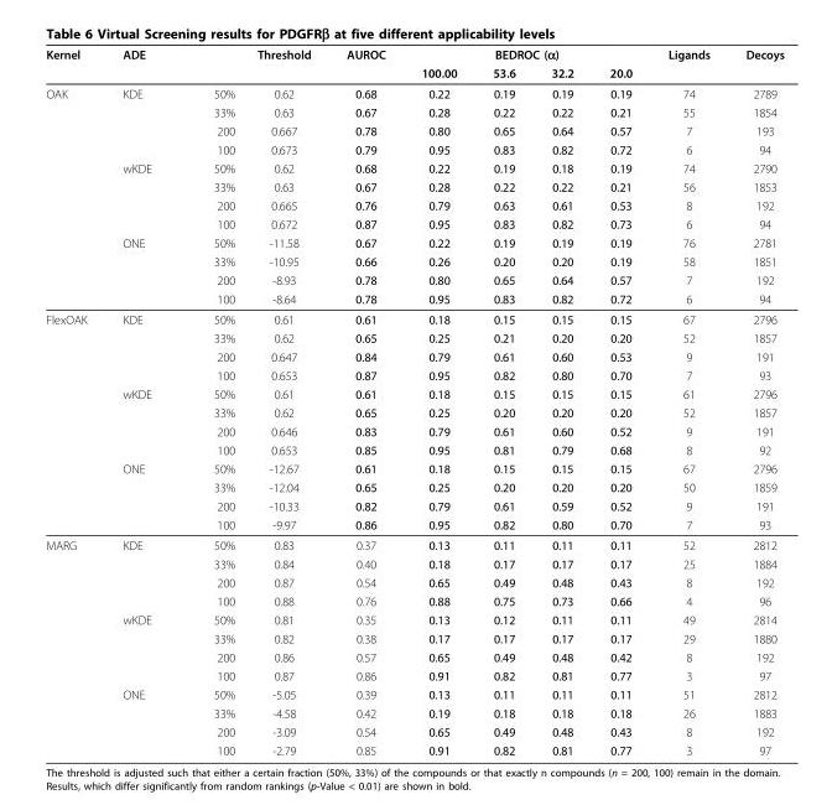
<table><thead><tr><td rowspan="2">Kernel</td><td rowspan="2">ADE</td><td rowspan="2"></td><td rowspan="2">Threshold</td><td rowspan="2">AUROC</td><td colspan="4">BEDROC (α)</td><td rowspan="2">Ligands</td><td rowspan="2">Decoys</td></tr><tr><td>100.00</td><td>53.6</td><td>32.2</td><td>20.0</td></tr></thead><tbody><tr><td rowspan="12">OAK</td><td>KDE</td><td>50%</td><td>0.62</td><td>0.68</td><td>0.22</td><td>0.19</td><td>0.19</td><td>0.19</td><td>74</td><td>2789</td></tr><tr><td></td><td>33%</td><td>0.63</td><td>0.67</td><td>0.28</td><td>0.22</td><td>0.22</td><td>0.21</td><td>55</td><td>1854</td></tr><tr><td></td><td>200</td><td>0.667</td><td>0.78</td><td>0.80</td><td>0.65</td><td>0.64</td><td>0.57</td><td>7</td><td>193</td></tr><tr><td></td><td>100</td><td>0.673</td><td>0.79</td><td>0.95</td><td>0.83</td><td>0.82</td><td>0.72</td><td>6</td><td>94</td></tr><tr><td>wKDE</td><td>50%</td><td>0.62</td><td>0.68</td><td>0.22</td><td>0.19</td><td>0.18</td><td>0.19</td><td>74</td><td>2790</td></tr><tr><td></td><td>33%</td><td>0.63</td><td>0.67</td><td>0.28</td><td>0.22</td><td>0.22</td><td>0.21</td><td>56</td><td>1853</td></tr><tr><td></td><td>200</td><td>0.665</td><td>0.76</td><td>0.79</td><td>0.63</td><td>0.61</td><td>0.53</td><td>8</td><td>192</td></tr><tr><td></td><td>100</td><td>0.672</td><td>0.87</td><td>0.95</td><td>0.83</td><td>0.82</td><td>0.73</td><td>6</td><td>94</td></tr><tr><td>ONE</td><td>50%</td><td>-11.58</td><td>0.67</td><td>0.22</td><td>0.19</td><td>0.19</td><td>0.19</td><td>76</td><td>2781</td></tr><tr><td></td><td>33%</td><td>-10.95</td><td>0.66</td><td>0.26</td><td>0.20</td><td>0.20</td><td>0.19</td><td>58</td><td>1851</td></tr><tr><td></td><td>200</td><td>-8.93</td><td>0.78</td><td>0.80</td><td>0.65</td><td>0.64</td><td>0.57</td><td>7</td><td>192</td></tr><tr><td></td><td>100</td><td>-8.64</td><td>0.78</td><td>0.95</td><td>0.83</td><td>0.82</td><td>0.72</td><td>6</td><td>94</td></tr><tr><td rowspan="12">FlexOAK</td><td>KDE</td><td>50%</td><td>0.61</td><td>0.61</td><td>0.18</td><td>0.15</td><td>0.15</td><td>0.15</td><td>67</td><td>2796</td></tr><tr><td></td><td>33%</td><td>0.62</td><td>0.65</td><td>0.25</td><td>0.21</td><td>0.20</td><td>0.20</td><td>52</td><td>1857</td></tr><tr><td></td><td>200</td><td>0.647</td><td>0.84</td><td>0.79</td><td>0.61</td><td>0.60</td><td>0.53</td><td>9</td><td>191</td></tr><tr><td></td><td>100</td><td>0.653</td><td>0.87</td><td>0.95</td><td>0.82</td><td>0.80</td><td>0.70</td><td>7</td><td>93</td></tr><tr><td>wKDE</td><td>50%</td><td>0.61</td><td>0.61</td><td>0.18</td><td>0.15</td><td>0.15</td><td>0.15</td><td>61</td><td>2796</td></tr><tr><td></td><td>33%</td><td>0.62</td><td>0.65</td><td>0.25</td><td>0.20</td><td>0.20</td><td>0.20</td><td>52</td><td>1857</td></tr><tr><td></td><td>200</td><td>0.646</td><td>0.83</td><td>0.79</td><td>0.61</td><td>0.60</td><td>0.52</td><td>9</td><td>191</td></tr><tr><td></td><td>100</td><td>0.653</td><td>0.85</td><td>0.95</td><td>0.81</td><td>0.79</td><td>0.68</td><td>8</td><td>92</td></tr><tr><td>ONE</td><td>50%</td><td>-12.67</td><td>0.61</td><td>0.18</td><td>0.15</td><td>0.15</td><td>0.15</td><td>67</td><td>2796</td></tr><tr><td></td><td>33%</td><td>-12.04</td><td>0.65</td><td>0.25</td><td>0.20</td><td>0.20</td><td>0.20</td><td>50</td><td>1859</td></tr><tr><td></td><td>200</td><td>-10.33</td><td>0.82</td><td>0.79</td><td>0.61</td><td>0.59</td><td>0.52</td><td>9</td><td>191</td></tr><tr><td></td><td>100</td><td>-9.97</td><td>0.86</td><td>0.95</td><td>0.82</td><td>0.80</td><td>0.70</td><td>7</td><td>93</td></tr><tr><td rowspan="12">MARG</td><td>KDE</td><td>50%</td><td>0.83</td><td>0.37</td><td>0.13</td><td>0.11</td><td>0.11</td><td>0.11</td><td>52</td><td>2812</td></tr><tr><td></td><td>33%</td><td>0.84</td><td>0.40</td><td>0.18</td><td>0.17</td><td>0.17</td><td>0.17</td><td>25</td><td>1884</td></tr><tr><td></td><td>200</td><td>0.87</td><td>0.54</td><td>0.65</td><td>0.49</td><td>0.48</td><td>0.43</td><td>8</td><td>192</td></tr><tr><td></td><td>100</td><td>0.88</td><td>0.76</td><td>0.88</td><td>0.75</td><td>0.73</td><td>0.66</td><td>4</td><td>96</td></tr><tr><td>wKDE</td><td>50%</td><td>0.81</td><td>0.35</td><td>0.13</td><td>0.12</td><td>0.11</td><td>0.11</td><td>49</td><td>2814</td></tr><tr><td></td><td>33%</td><td>0.82</td><td>0.38</td><td>0.17</td><td>0.17</td><td>0.17</td><td>0.17</td><td>29</td><td>1880</td></tr><tr><td></td><td>200</td><td>0.86</td><td>0.57</td><td>0.65</td><td>0.49</td><td>0.48</td><td>0.42</td><td>8</td><td>192</td></tr><tr><td></td><td>100</td><td>0.87</td><td>0.86</td><td>0.91</td><td>0.82</td><td>0.81</td><td>0.77</td><td>3</td><td>97</td></tr><tr><td>ONE</td><td>50%</td><td>-5.05</td><td>0.39</td><td>0.13</td><td>0.11</td><td>0.11</td><td>0.11</td><td>51</td><td>2812</td></tr><tr><td></td><td>33%</td><td>-4.58</td><td>0.42</td><td>0.19</td><td>0.18</td><td>0.18</td><td>0.18</td><td>26</td><td>1883</td></tr><tr><td></td><td>200</td><td>-3.09</td><td>0.54</td><td>0.65</td><td>0.49</td><td>0.48</td><td>0.43</td><td>8</td><td>192</td></tr><tr><td></td><td>100</td><td>-2.79</td><td>0.85</td><td>0.91</td><td>0.82</td><td>0.81</td><td>0.77</td><td>3</td><td>97</td></tr></tbody></table>